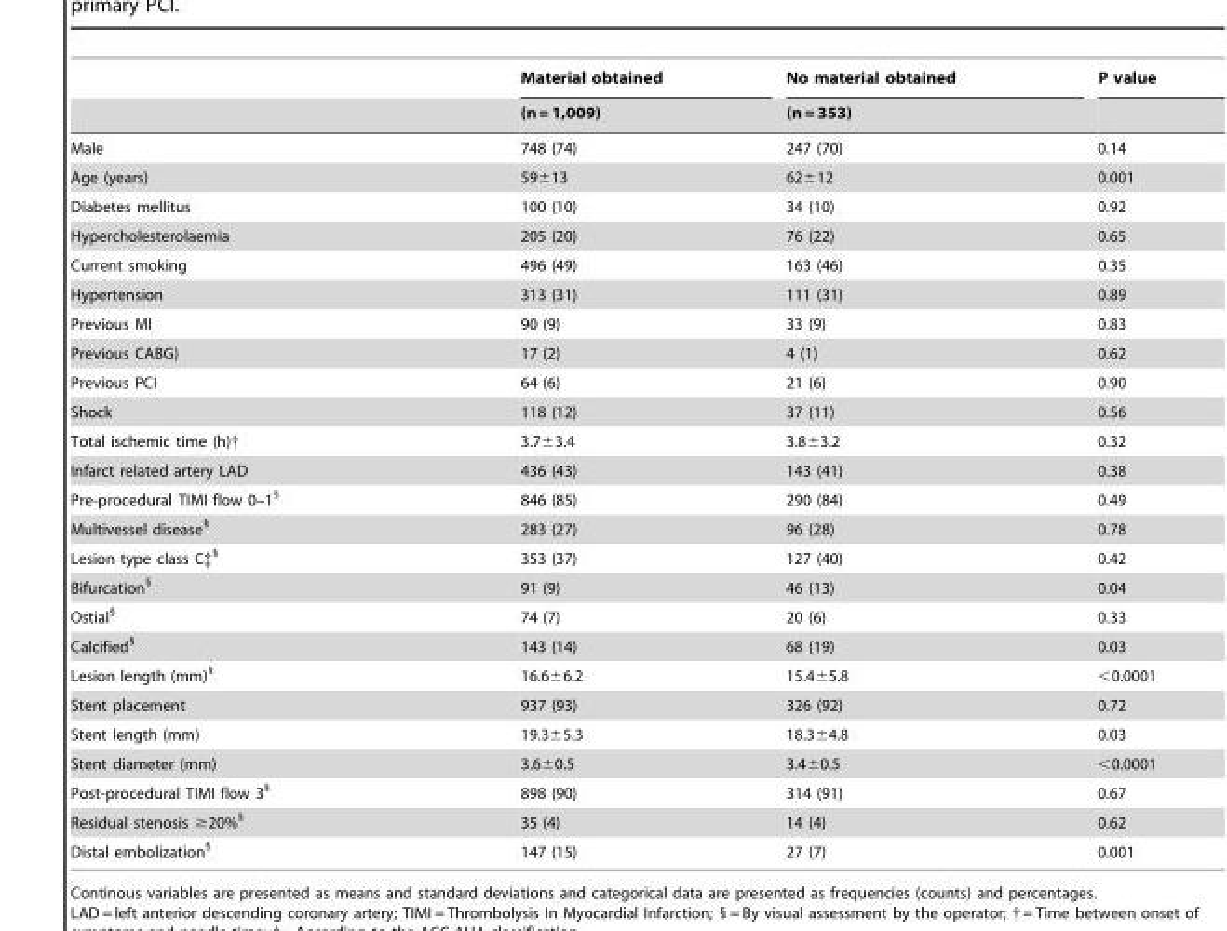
<table><thead><tr><td rowspan="2"></td><td rowspan="2">Material obtained (n = 1,009)</td><td rowspan="2">No material obtained (n = 353)</td><td rowspan="2">P value</td></tr><tr></tr></thead><tbody><tr><td>Male</td><td>748 (74)</td><td>247 (70)</td><td>0.14</td></tr><tr><td>Age (years)</td><td>59±13</td><td>62±12</td><td>0.001</td></tr><tr><td>Diabetes mellitus</td><td>100 (10)</td><td>34 (10)</td><td>0.92</td></tr><tr><td>Hypercholesterolaemia</td><td>205 (20)</td><td>76 (22)</td><td>0.65</td></tr><tr><td>Current smoking</td><td>496 (49)</td><td>163 (46)</td><td>0.35</td></tr><tr><td>Hypertension</td><td>313 (31)</td><td>111 (31)</td><td>0.89</td></tr><tr><td>Previous MI</td><td>90 (9)</td><td>33 (9)</td><td>0.83</td></tr><tr><td>Previous CABG)</td><td>17 (2)</td><td>4 (1)</td><td>0.62</td></tr><tr><td>Previous PCI</td><td>64 (6)</td><td>21 (6)</td><td>0.90</td></tr><tr><td>Shock</td><td>118 (12)</td><td>37 (11)</td><td>0.56</td></tr><tr><td>Total ischemic time (h)†</td><td>3.7±3.4</td><td>3.8±3.2</td><td>0.32</td></tr><tr><td>Infarct related artery LAD</td><td>436 (43)</td><td>143 (41)</td><td>0.38</td></tr><tr><td>Pre-procedural TIMI flow 0–1<sup>§</sup></td><td>846 (85)</td><td>290 (84)</td><td>0.49</td></tr><tr><td>Multivessel disease<sup>§</sup></td><td>283 (27)</td><td>96 (28)</td><td>0.78</td></tr><tr><td>Lesion type class C‡<sup>§</sup></td><td>353 (37)</td><td>127 (40)</td><td>0.42</td></tr><tr><td>Bifurcation<sup>§</sup></td><td>91 (9)</td><td>46 (13)</td><td>0.04</td></tr><tr><td>Ostial<sup>§</sup></td><td>74 (7)</td><td>20 (6)</td><td>0.33</td></tr><tr><td>Calcified<sup>§</sup></td><td>143 (14)</td><td>68 (19)</td><td>0.03</td></tr><tr><td>Lesion length (mm)<sup>§</sup></td><td>16.6±6.2</td><td>15.4±5.8</td><td>&lt;0.0001</td></tr><tr><td>Stent placement</td><td>937 (93)</td><td>326 (92)</td><td>0.72</td></tr><tr><td>Stent length (mm)</td><td>19.3±5.3</td><td>18.3±4.8</td><td>0.03</td></tr><tr><td>Stent diameter (mm)</td><td>3.6±0.5</td><td>3.4±0.5</td><td>&lt;0.0001</td></tr><tr><td>Post-procedural TIMI flow 3<sup>§</sup></td><td>898 (90)</td><td>314 (91)</td><td>0.67</td></tr><tr><td>Residual stenosis ≥20%<sup>§</sup></td><td>35 (4)</td><td>14 (4)</td><td>0.62</td></tr><tr><td>Distal embolization<sup>§</sup></td><td>147 (15)</td><td>27 (7)</td><td>0.001</td></tr></tbody></table>